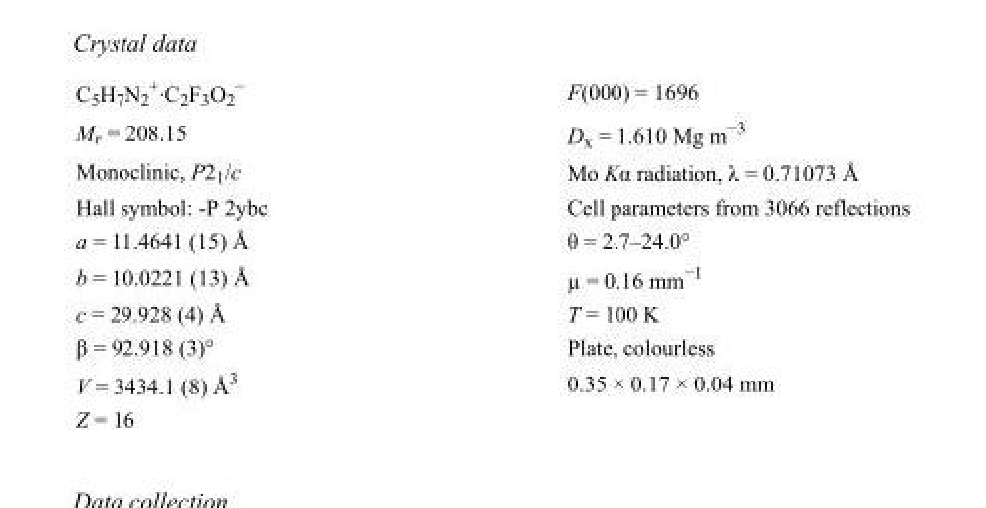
<table><tbody><tr><td>C<sub>5</sub>H<sub>7</sub>N<sub>2</sub> <sup>+</sup>·C<sub>2</sub>F<sub>3</sub>O<sub>2</sub> <sup>−</sup></td><td>F(000) = 1696</td></tr><tr><td>M<sub>r</sub> = 208.15</td><td>D<sub>x</sub> = 1.610 Mg m<sup>−3</sup></td></tr><tr><td>Monoclinic, P2<sub>1</sub>/c</td><td>Mo Kα radiation, λ = 0.71073 Å</td></tr><tr><td>Hall symbol: -P 2ybc</td><td>Cell parameters from 3066 reflections</td></tr><tr><td>a = 11.4641 (15) Å</td><td>θ = 2.7–24.0°</td></tr><tr><td>b = 10.0221 (13) Å</td><td>µ = 0.16 mm<sup>−1</sup></td></tr><tr><td>c = 29.928 (4) Å</td><td>T = 100 K</td></tr><tr><td>β = 92.918 (3)°</td><td>Plate, colourless</td></tr><tr><td>V = 3434.1 (8) Å<sup>3</sup></td><td>0.35 × 0.17 × 0.04 mm</td></tr><tr><td>Z = 16</td><td></td></tr></tbody></table>